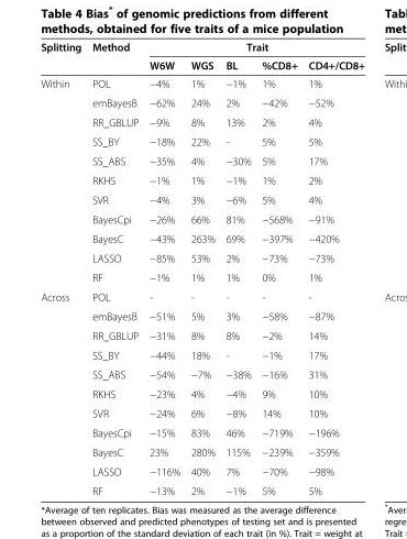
<table><thead><tr><td rowspan="2">Splitting</td><td rowspan="2">Method</td><td colspan="5">Trait</td></tr><tr><td>W6W</td><td>WGS</td><td>BL</td><td>%CD8+</td><td>CD4+/CD8+</td></tr></thead><tbody><tr><td rowspan="11">Within</td><td>POL</td><td>−4%</td><td>1%</td><td>−1%</td><td>1%</td><td>1%</td></tr><tr><td>emBayesB</td><td>−62%</td><td>24%</td><td>2%</td><td>−42%</td><td>−52%</td></tr><tr><td>RR_GBLUP</td><td>−9%</td><td>8%</td><td>13%</td><td>2%</td><td>4%</td></tr><tr><td>SS_BY</td><td>−18%</td><td>22%</td><td>-</td><td>5%</td><td>5%</td></tr><tr><td>SS_ABS</td><td>−35%</td><td>4%</td><td>−30%</td><td>5%</td><td>17%</td></tr><tr><td>RKHS</td><td>−1%</td><td>1%</td><td>−1%</td><td>1%</td><td>2%</td></tr><tr><td>SVR</td><td>−4%</td><td>3%</td><td>−6%</td><td>5%</td><td>4%</td></tr><tr><td>BayesCpi</td><td>−26%</td><td>66%</td><td>81%</td><td>−568%</td><td>−91%</td></tr><tr><td>BayesC</td><td>−43%</td><td>263%</td><td>69%</td><td>−397%</td><td>−420%</td></tr><tr><td>LASSO</td><td>−85%</td><td>53%</td><td>2%</td><td>−73%</td><td>−73%</td></tr><tr><td>RF</td><td>−1%</td><td>1%</td><td>1%</td><td>0%</td><td>1%</td></tr><tr><td rowspan="11">Across</td><td>POL</td><td>-</td><td>-</td><td>-</td><td>-</td><td>-</td></tr><tr><td>emBayesB</td><td>−51%</td><td>5%</td><td>3%</td><td>−58%</td><td>−87%</td></tr><tr><td>RR_GBLUP</td><td>−31%</td><td>8%</td><td>8%</td><td>−2%</td><td>14%</td></tr><tr><td>SS_BY</td><td>−44%</td><td>18%</td><td>-</td><td>−1%</td><td>17%</td></tr><tr><td>SS_ABS</td><td>−54%</td><td>−7%</td><td>−38%</td><td>−16%</td><td>31%</td></tr><tr><td>RKHS</td><td>−23%</td><td>4%</td><td>−4%</td><td>9%</td><td>10%</td></tr><tr><td>SVR</td><td>−24%</td><td>6%</td><td>−8%</td><td>14%</td><td>10%</td></tr><tr><td>BayesCpi</td><td>−15%</td><td>83%</td><td>46%</td><td>−719%</td><td>−196%</td></tr><tr><td>BayesC</td><td>23%</td><td>280%</td><td>115%</td><td>−239%</td><td>−359%</td></tr><tr><td>LASSO</td><td>−116%</td><td>40%</td><td>7%</td><td>−70%</td><td>−98%</td></tr><tr><td>RF</td><td>−13%</td><td>2%</td><td>−1%</td><td>5%</td><td>5%</td></tr></tbody></table>